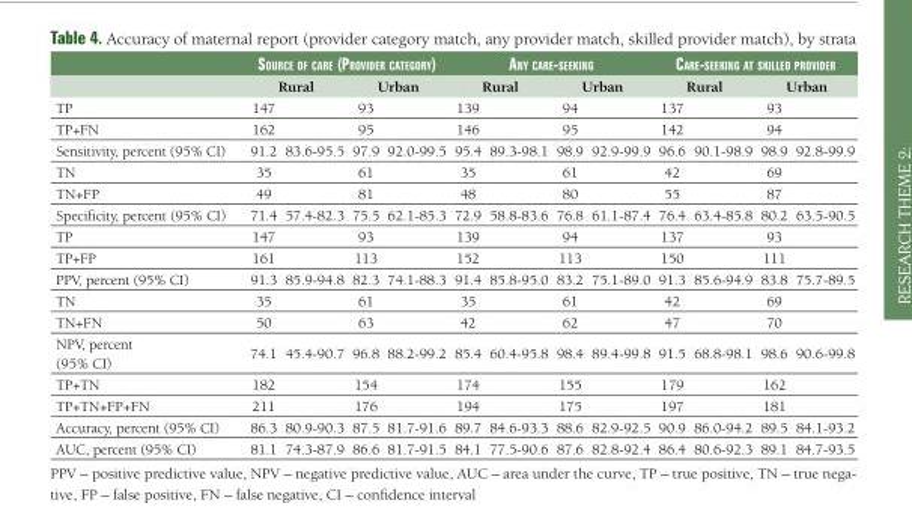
<table><thead><tr><td rowspan="3">TP</td><td colspan="4">SouRce oF caRe (PRovideR caTegoRy)</td><td colspan="4">any caRe-Seeking</td><td colspan="4">caRe-Seeking aT Skilled PRovideR</td></tr><tr><td colspan="2">Rural</td><td colspan="2">Urban</td><td colspan="2">Rural</td><td colspan="2">Urban</td><td colspan="2">Rural</td><td colspan="2">Urban</td></tr><tr><td>147</td><td></td><td>93</td><td></td><td>139</td><td></td><td>94</td><td></td><td>137</td><td></td><td>93</td><td></td></tr></thead><tbody><tr><td>TP+FN</td><td>162</td><td></td><td>95</td><td></td><td>146</td><td></td><td>95</td><td></td><td>142</td><td></td><td>94</td><td></td></tr><tr><td>Sensitivity, percent (95% CI)</td><td>91.2</td><td>83.6-95.5</td><td>97.9</td><td>92.0-99.5</td><td>95.4</td><td>89.3-98.1</td><td>98.9</td><td>92.9-99.9</td><td>96.6</td><td>90.1-98.9</td><td>98.9</td><td>92.8-99.9</td></tr><tr><td>TN</td><td>35</td><td></td><td>61</td><td></td><td>35</td><td></td><td>61</td><td></td><td>42</td><td></td><td>69</td><td></td></tr><tr><td>TN+FP</td><td>49</td><td></td><td>81</td><td></td><td>48</td><td></td><td>80</td><td></td><td>55</td><td></td><td>87</td><td></td></tr><tr><td>Specificity, percent (95% CI)</td><td>71.4</td><td>57.4-82.3</td><td>75.5</td><td>62.1-85.3</td><td>72.9</td><td>58.8-83.6</td><td>76.8</td><td>61.1-87.4</td><td>76.4</td><td>63.4-85.8</td><td>80.2</td><td>63.5-90.5</td></tr><tr><td>TP</td><td>147</td><td></td><td>93</td><td></td><td>139</td><td></td><td>94</td><td></td><td>137</td><td></td><td>93</td><td></td></tr><tr><td>TP+FP</td><td>161</td><td></td><td>113</td><td></td><td>152</td><td></td><td>113</td><td></td><td>150</td><td></td><td>111</td><td></td></tr><tr><td>PPV, percent (95% CI)</td><td>91.3</td><td>85.9-94.8</td><td>82.3</td><td>74.1-88.3</td><td>91.4</td><td>85.8-95.0</td><td>83.2</td><td>75.1-89.0</td><td>91.3</td><td>85.6-94.9</td><td>83.8</td><td>75.7-89.5</td></tr><tr><td>TN</td><td>35</td><td></td><td>61</td><td></td><td>35</td><td></td><td>61</td><td></td><td>42</td><td></td><td>69</td><td></td></tr><tr><td>TN+FN</td><td>50</td><td></td><td>63</td><td></td><td>42</td><td></td><td>62</td><td></td><td>47</td><td></td><td>70</td><td></td></tr><tr><td>NPV, percent (95% CI)</td><td>74.1</td><td>45.4-90.7</td><td>96.8</td><td>88.2-99.2</td><td>85.4</td><td>60.4-95.8</td><td>98.4</td><td>89.4-99.8</td><td>91.5</td><td>68.8-98.1</td><td>98.6</td><td>90.6-99.8</td></tr><tr><td>TP+TN</td><td>182</td><td></td><td>154</td><td></td><td>174</td><td></td><td>155</td><td></td><td>179</td><td></td><td>162</td><td></td></tr><tr><td>TP+TN+FP+FN</td><td>211</td><td></td><td>176</td><td></td><td>194</td><td></td><td>175</td><td></td><td>197</td><td></td><td>181</td><td></td></tr><tr><td>Accuracy, percent (95% CI)</td><td>86.3</td><td>80.9-90.3</td><td>87.5</td><td>81.7-91.6</td><td>89.7</td><td>84.6-93.3</td><td>88.6</td><td>82.9-92.5</td><td>90.9</td><td>86.0-94.2</td><td>89.5</td><td>84.1-93.2</td></tr><tr><td>AUC, percent (95% CI)</td><td>81.1</td><td>74.3-87.9</td><td>86.6</td><td>81.7-91.5</td><td>84.1</td><td>77.5-90.6</td><td>87.6</td><td>82.8-92.4</td><td>86.4</td><td>80.6-92.3</td><td>89.1</td><td>84.7-93.5</td></tr></tbody></table>